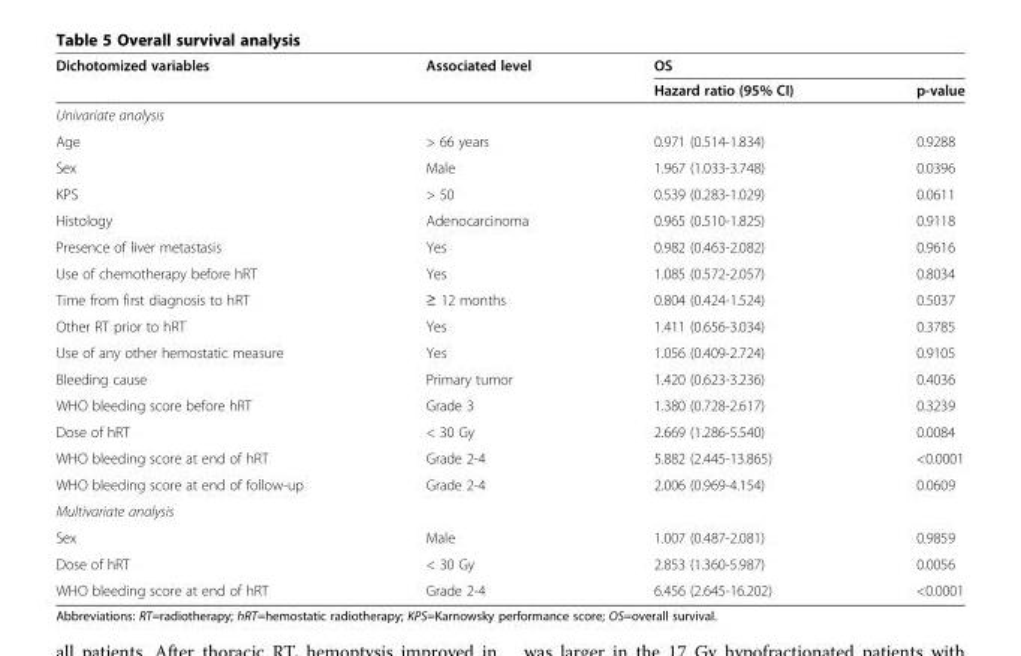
<table><thead><tr><td rowspan="2">Dichotomized variables</td><td rowspan="2">Associated level</td><td colspan="2">OS</td></tr><tr><td>Hazard ratio (95% CI)</td><td>p-value</td></tr></thead><tbody><tr><td colspan="4">Univariate analysis</td></tr><tr><td>Age</td><td>&gt; 66 years</td><td>0.971 (0.514-1.834)</td><td>0.9288</td></tr><tr><td>Sex</td><td>Male</td><td>1.967 (1.033-3.748)</td><td>0.0396</td></tr><tr><td>KPS</td><td>&gt; 50</td><td>0.539 (0.283-1.029)</td><td>0.0611</td></tr><tr><td>Histology</td><td>Adenocarcinoma</td><td>0.965 (0.510-1.825)</td><td>0.9118</td></tr><tr><td>Presence of liver metastasis</td><td>Yes</td><td>0.982 (0.463-2.082)</td><td>0.9616</td></tr><tr><td>Use of chemotherapy before hRT</td><td>Yes</td><td>1.085 (0.572-2.057)</td><td>0.8034</td></tr><tr><td>Time from first diagnosis to hRT</td><td>≥ 12 months</td><td>0.804 (0.424-1.524)</td><td>0.5037</td></tr><tr><td>Other RT prior to hRT</td><td>Yes</td><td>1.411 (0.656-3.034)</td><td>0.3785</td></tr><tr><td>Use of any other hemostatic measure</td><td>Yes</td><td>1.056 (0.409-2.724)</td><td>0.9105</td></tr><tr><td>Bleeding cause</td><td>Primary tumor</td><td>1.420 (0.623-3.236)</td><td>0.4036</td></tr><tr><td>WHO bleeding score before hRT</td><td>Grade 3</td><td>1.380 (0.728-2.617)</td><td>0.3239</td></tr><tr><td>Dose of hRT</td><td>&lt; 30 Gy</td><td>2.669 (1.286-5.540)</td><td>0.0084</td></tr><tr><td>WHO bleeding score at end of hRT</td><td>Grade 2-4</td><td>5.882 (2.445-13.865)</td><td>&lt;0.0001</td></tr><tr><td>WHO bleeding score at end of follow-up</td><td>Grade 2-4</td><td>2.006 (0.969-4.154)</td><td>0.0609</td></tr><tr><td colspan="4">Multivariate analysis</td></tr><tr><td>Sex</td><td>Male</td><td>1.007 (0.487-2.081)</td><td>0.9859</td></tr><tr><td>Dose of hRT</td><td>&lt; 30 Gy</td><td>2.853 (1.360-5.987)</td><td>0.0056</td></tr><tr><td>WHO bleeding score at end of hRT</td><td>Grade 2-4</td><td>6.456 (2.645-16.202)</td><td>&lt;0.0001</td></tr></tbody></table>